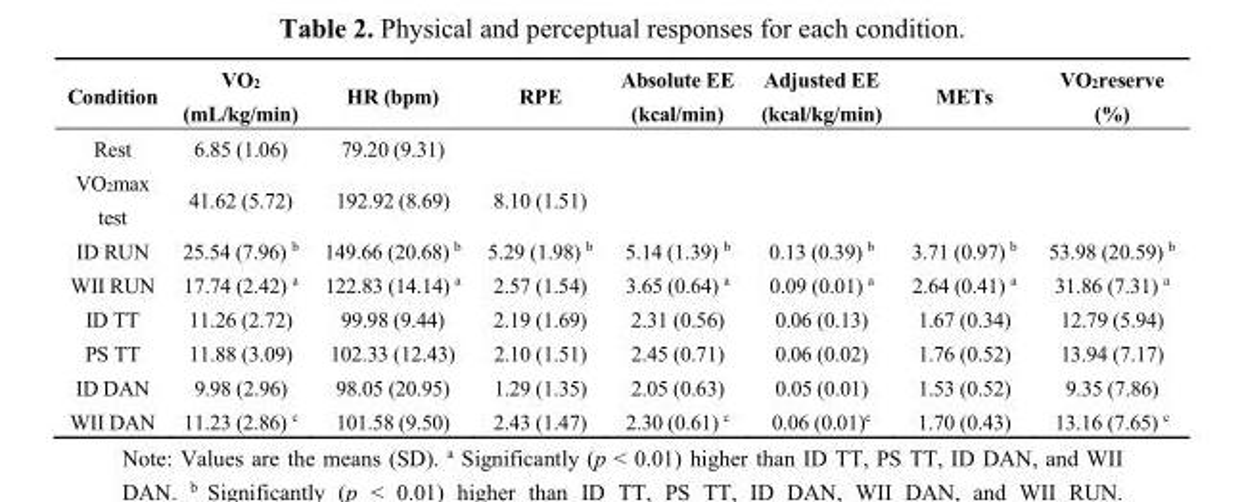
<table><thead><tr><td>Condition</td><td>VO<sub>2</sub> (mL/kg/min)</td><td>HR (bpm)</td><td>RPE</td><td>Absolute EE (kcal/min)</td><td>Adjusted EE (kcal/kg/min)</td><td>METs</td><td>VO<sub>2</sub>reserve (%)</td></tr></thead><tbody><tr><td>Rest</td><td>6.85 (1.06)</td><td>79.20 (9.31)</td><td></td><td></td><td></td><td></td><td></td></tr><tr><td>VO<sub>2</sub>max test</td><td>41.62 (5.72)</td><td>192.92 (8.69)</td><td>8.10 (1.51)</td><td></td><td></td><td></td><td></td></tr><tr><td>ID RUN</td><td>25.54 (7.96) <sup>b</sup></td><td>149.66 (20.68) <sup>b</sup></td><td>5.29 (1.98) <sup>b</sup></td><td>5.14 (1.39) <sup>b</sup></td><td>0.13 (0.39) <sup>b</sup></td><td>3.71 (0.97) <sup>b</sup></td><td>53.98 (20.59) <sup>b</sup></td></tr><tr><td>WII RUN</td><td>17.74 (2.42) <sup>a</sup></td><td>122.83 (14.14) <sup>a</sup></td><td>2.57 (1.54)</td><td>3.65 (0.64) <sup>a</sup></td><td>0.09 (0.01) <sup>a</sup></td><td>2.64 (0.41) <sup>a</sup></td><td>31.86 (7.31) <sup>a</sup></td></tr><tr><td>ID TT</td><td>11.26 (2.72)</td><td>99.98 (9.44)</td><td>2.19 (1.69)</td><td>2.31 (0.56)</td><td>0.06 (0.13)</td><td>1.67 (0.34)</td><td>12.79 (5.94)</td></tr><tr><td>PS TT</td><td>11.88 (3.09)</td><td>102.33 (12.43)</td><td>2.10 (1.51)</td><td>2.45 (0.71)</td><td>0.06 (0.02)</td><td>1.76 (0.52)</td><td>13.94 (7.17)</td></tr><tr><td>ID DAN</td><td>9.98 (2.96)</td><td>98.05 (20.95)</td><td>1.29 (1.35)</td><td>2.05 (0.63)</td><td>0.05 (0.01)</td><td>1.53 (0.52)</td><td>9.35 (7.86)</td></tr><tr><td>WII DAN</td><td>11.23 (2.86) <sup>c</sup></td><td>101.58 (9.50)</td><td>2.43 (1.47)</td><td>2.30 (0.61) <sup>c</sup></td><td>0.06 (0.01)<sup>c</sup></td><td>1.70 (0.43)</td><td>13.16 (7.65) <sup>c</sup></td></tr></tbody></table>